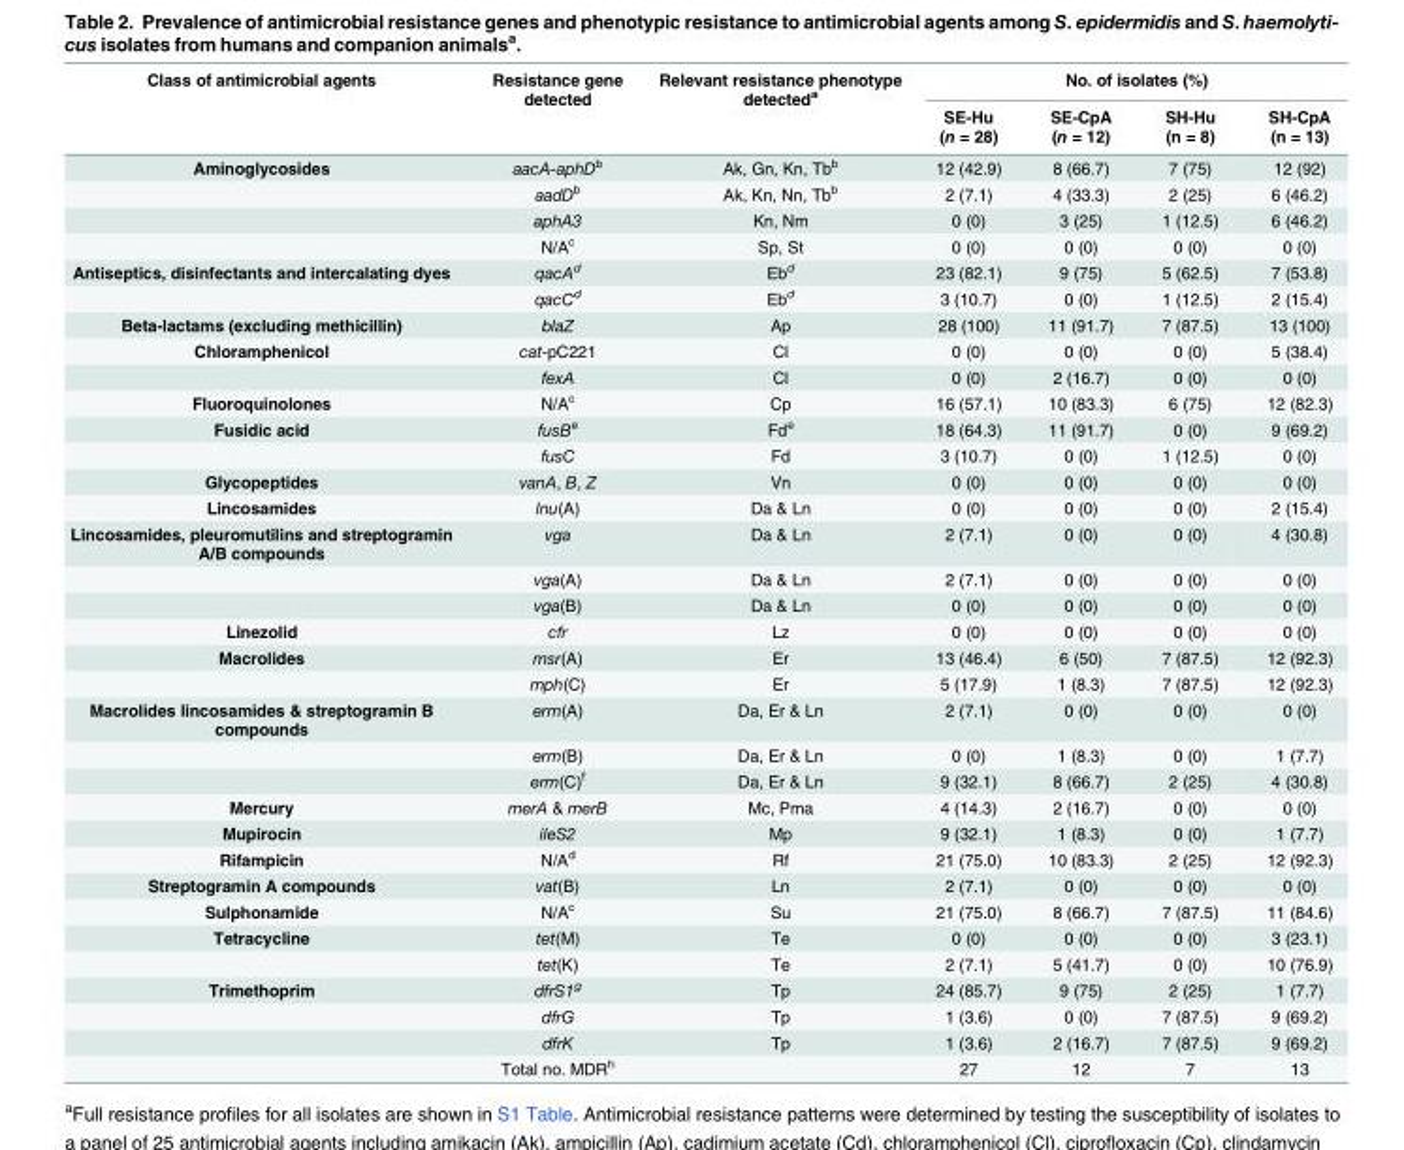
<table><thead><tr><td rowspan="2">Class of antimicrobial agents</td><td rowspan="2">Resistance gene detected</td><td rowspan="2">Relevant resistance phenotype detected<sup>a</sup></td><td colspan="4">No. of isolates (%)</td></tr><tr><td>SE-Hu (n = 28)</td><td>SE-CpA (n = 12)</td><td>SH-Hu (n = 8)</td><td>SH-CpA (n = 13)</td></tr></thead><tbody><tr><td rowspan="4">Aminoglycosides</td><td>aacA-aphD<sup>b</sup></td><td>Ak, Gn, Kn, Tb<sup>b</sup></td><td>12 (42.9)</td><td>8 (66.7)</td><td>7 (75)</td><td>12 (92)</td></tr><tr><td>aadD<sup>b</sup></td><td>Ak, Kn, Nn, Tb<sup>b</sup></td><td>2 (7.1)</td><td>4 (33.3)</td><td>2 (25)</td><td>6 (46.2)</td></tr><tr><td>aphA3</td><td>Kn, Nm</td><td>0 (0)</td><td>3 (25)</td><td>1 (12.5)</td><td>6 (46.2)</td></tr><tr><td>N/A<sup>c</sup></td><td>Sp, St</td><td>0 (0)</td><td>0 (0)</td><td>0 (0)</td><td>0 (0)</td></tr><tr><td rowspan="2">Antiseptics, disinfectants and intercalating dyes</td><td>qacA<sup>d</sup></td><td>Eb<sup>d</sup></td><td>23 (82.1)</td><td>9 (75)</td><td>5 (62.5)</td><td>7 (53.8)</td></tr><tr><td>qacC<sup>d</sup></td><td>Eb<sup>d</sup></td><td>3 (10.7)</td><td>0 (0)</td><td>1 (12.5)</td><td>2 (15.4)</td></tr><tr><td>Beta-lactams (excluding methicillin)</td><td>blaZ</td><td>Ap</td><td>28 (100)</td><td>11 (91.7)</td><td>7 (87.5)</td><td>13 (100)</td></tr><tr><td rowspan="2">Chloramphenicol</td><td>cat-pC221</td><td>Cl</td><td>0 (0)</td><td>0 (0)</td><td>0 (0)</td><td>5 (38.4)</td></tr><tr><td>fexA</td><td>Cl</td><td>0 (0)</td><td>2 (16.7)</td><td>0 (0)</td><td>0 (0)</td></tr><tr><td>Fluoroquinolones</td><td>N/A<sup>c</sup></td><td>Cp</td><td>16 (57.1)</td><td>10 (83.3)</td><td>6 (75)</td><td>12 (82.3)</td></tr><tr><td rowspan="2">Fusidic acid</td><td>fusB<sup>e</sup></td><td>Fd<sup>e</sup></td><td>18 (64.3)</td><td>11 (91.7)</td><td>0 (0)</td><td>9 (69.2)</td></tr><tr><td>fusC</td><td>Fd</td><td>3 (10.7)</td><td>0 (0)</td><td>1 (12.5)</td><td>0 (0)</td></tr><tr><td>Glycopeptides</td><td>vanA, B, Z</td><td>Vn</td><td>0 (0)</td><td>0 (0)</td><td>0 (0)</td><td>0 (0)</td></tr><tr><td>Lincosamides</td><td>lnu(A)</td><td>Da &amp; Ln</td><td>0 (0)</td><td>0 (0)</td><td>0 (0)</td><td>2 (15.4)</td></tr><tr><td rowspan="3">Lincosamides, pleuromutilins and streptogramin A/B compounds</td><td>vga</td><td>Da &amp; Ln</td><td>2 (7.1)</td><td>0 (0)</td><td>0 (0)</td><td>4 (30.8)</td></tr><tr><td>vga(A)</td><td>Da &amp; Ln</td><td>2 (7.1)</td><td>0 (0)</td><td>0 (0)</td><td>0 (0)</td></tr><tr><td>vga(B)</td><td>Da &amp; Ln</td><td>0 (0)</td><td>0 (0)</td><td>0 (0)</td><td>0 (0)</td></tr><tr><td>Linezolid</td><td>cfr</td><td>Lz</td><td>0 (0)</td><td>0 (0)</td><td>0 (0)</td><td>0 (0)</td></tr><tr><td rowspan="2">Macrolides</td><td>msr(A)</td><td>Er</td><td>13 (46.4)</td><td>6 (50)</td><td>7 (87.5)</td><td>12 (92.3)</td></tr><tr><td>mph(C)</td><td>Er</td><td>5 (17.9)</td><td>1 (8.3)</td><td>7 (87.5)</td><td>12 (92.3)</td></tr><tr><td rowspan="3">Macrolides lincosamides &amp; streptogramin B compounds</td><td>erm(A)</td><td>Da, Er &amp; Ln</td><td>2 (7.1)</td><td>0 (0)</td><td>0 (0)</td><td>0 (0)</td></tr><tr><td>erm(B)</td><td>Da, Er &amp; Ln</td><td>0 (0)</td><td>1 (8.3)</td><td>0 (0)</td><td>1 (7.7)</td></tr><tr><td>erm(C)<sup>f</sup></td><td>Da, Er &amp; Ln</td><td>9 (32.1)</td><td>8 (66.7)</td><td>2 (25)</td><td>4 (30.8)</td></tr><tr><td>Mercury</td><td>merA &amp; merB</td><td>Mc, Pma</td><td>4 (14.3)</td><td>2 (16.7)</td><td>0 (0)</td><td>0 (0)</td></tr><tr><td>Mupirocin</td><td>ileS2</td><td>Mp</td><td>9 (32.1)</td><td>1 (8.3)</td><td>0 (0)</td><td>1 (7.7)</td></tr><tr><td>Rifampicin</td><td>N/A<sup>d</sup></td><td>Rf</td><td>21 (75.0)</td><td>10 (83.3)</td><td>2 (25)</td><td>12 (92.3)</td></tr><tr><td>Streptogramin A compounds</td><td>vat(B)</td><td>Ln</td><td>2 (7.1)</td><td>0 (0)</td><td>0 (0)</td><td>0 (0)</td></tr><tr><td>Sulphonamide</td><td>N/A<sup>c</sup></td><td>Su</td><td>21 (75.0)</td><td>8 (66.7)</td><td>7 (87.5)</td><td>11 (84.6)</td></tr><tr><td rowspan="2">Tetracycline</td><td>tet(M)</td><td>Te</td><td>0 (0)</td><td>0 (0)</td><td>0 (0)</td><td>3 (23.1)</td></tr><tr><td>tet(K)</td><td>Te</td><td>2 (7.1)</td><td>5 (41.7)</td><td>0 (0)</td><td>10 (76.9)</td></tr><tr><td rowspan="4">Trimethoprim</td><td>dfrS1<sup>g</sup></td><td>Tp</td><td>24 (85.7)</td><td>9 (75)</td><td>2 (25)</td><td>1 (7.7)</td></tr><tr><td>dfrG</td><td>Tp</td><td>1 (3.6)</td><td>0 (0)</td><td>7 (87.5)</td><td>9 (69.2)</td></tr><tr><td>dfrK</td><td>Tp</td><td>1 (3.6)</td><td>2 (16.7)</td><td>7 (87.5)</td><td>9 (69.2)</td></tr><tr><td>Total no. MDR<sup>h</sup></td><td></td><td>27</td><td>12</td><td>7</td><td>13</td></tr></tbody></table>